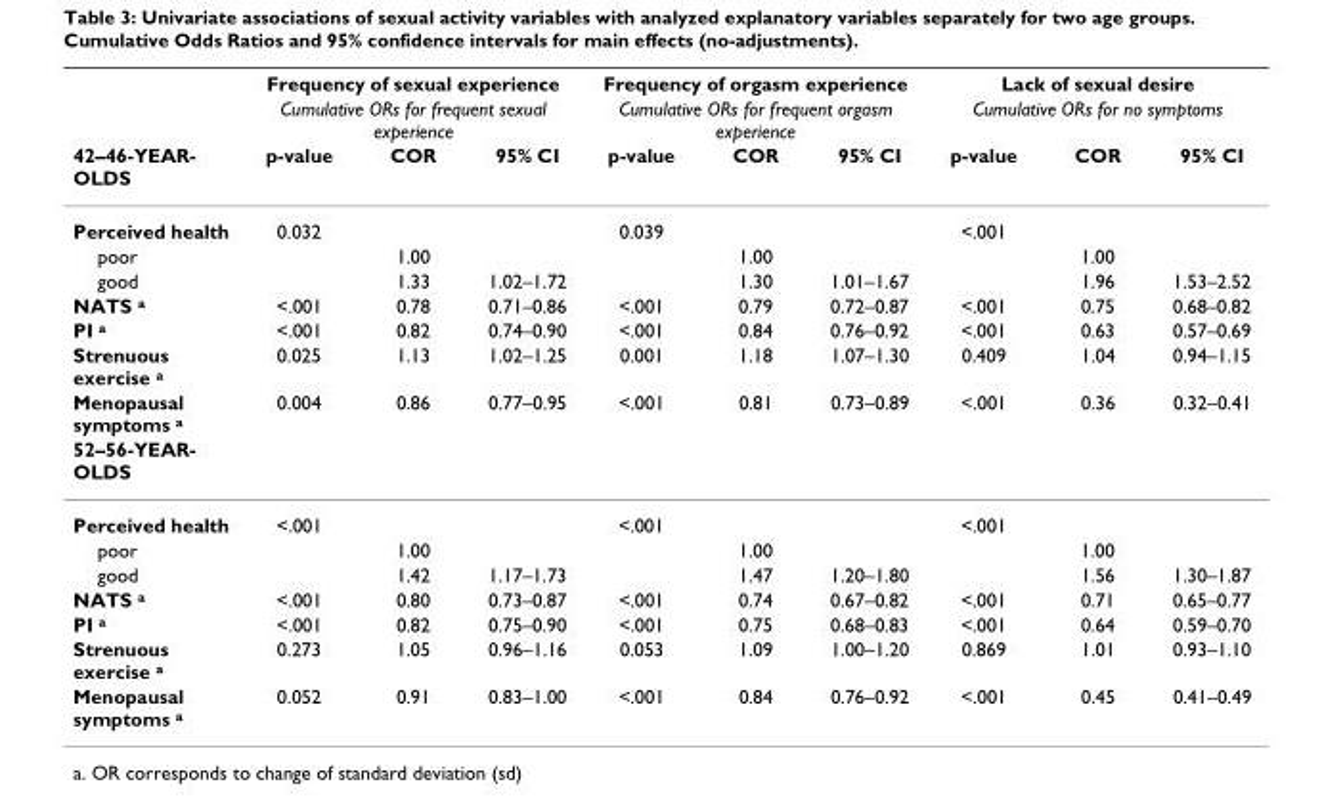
<table><thead><tr><td rowspan="3">42–46-YEAR- OLDS</td><td rowspan="2" colspan="3">Frequency of sexual experience Cumulative ORs for frequent sexual experience</td><td rowspan="2" colspan="3">Frequency of orgasm experience Cumulative ORs for frequent orgasm experience</td><td rowspan="2" colspan="3">Lack of sexual desire Cumulative ORs for no symptoms</td></tr><tr></tr><tr><td>p-value</td><td>COR</td><td>95% CI</td><td>p-value</td><td>COR</td><td>95% CI</td><td>p-value</td><td>COR</td><td>95% CI</td></tr></thead><tbody><tr><td>Perceived health</td><td>0.032</td><td></td><td></td><td>0.039</td><td></td><td></td><td>&lt;.001</td><td></td><td></td></tr><tr><td>poor</td><td></td><td>1.00</td><td></td><td></td><td>1.00</td><td></td><td></td><td>1.00</td><td></td></tr><tr><td>good</td><td></td><td>1.33</td><td>1.02–1.72</td><td></td><td>1.30</td><td>1.01–1.67</td><td></td><td>1.96</td><td>1.53–2.52</td></tr><tr><td>NATS <sup>a</sup></td><td>&lt;.001</td><td>0.78</td><td>0.71–0.86</td><td>&lt;.001</td><td>0.79</td><td>0.72–0.87</td><td>&lt;.001</td><td>0.75</td><td>0.68–0.82</td></tr><tr><td>PI <sup>a</sup></td><td>&lt;.001</td><td>0.82</td><td>0.74–0.90</td><td>&lt;.001</td><td>0.84</td><td>0.76–0.92</td><td>&lt;.001</td><td>0.63</td><td>0.57–0.69</td></tr><tr><td>Strenuous exercise <sup>a</sup></td><td>0.025</td><td>1.13</td><td>1.02–1.25</td><td>0.001</td><td>1.18</td><td>1.07–1.30</td><td>0.409</td><td>1.04</td><td>0.94–1.15</td></tr><tr><td>Menopausal symptoms <sup>a</sup></td><td>0.004</td><td>0.86</td><td>0.77–0.95</td><td>&lt;.001</td><td>0.81</td><td>0.73–0.89</td><td>&lt;.001</td><td>0.36</td><td>0.32–0.41</td></tr><tr><td colspan="10">52–56-YEAR- OLDS</td></tr><tr><td>Perceived health</td><td>&lt;.001</td><td></td><td></td><td>&lt;.001</td><td></td><td></td><td>&lt;.001</td><td></td><td></td></tr><tr><td>poor</td><td></td><td>1.00</td><td></td><td></td><td>1.00</td><td></td><td></td><td>1.00</td><td></td></tr><tr><td>good</td><td></td><td>1.42</td><td>1.17–1.73</td><td></td><td>1.47</td><td>1.20–1.80</td><td></td><td>1.56</td><td>1.30–1.87</td></tr><tr><td>NATS <sup>a</sup></td><td>&lt;.001</td><td>0.80</td><td>0.73–0.87</td><td>&lt;.001</td><td>0.74</td><td>0.67–0.82</td><td>&lt;.001</td><td>0.71</td><td>0.65–0.77</td></tr><tr><td>PI <sup>a</sup></td><td>&lt;.001</td><td>0.82</td><td>0.75–0.90</td><td>&lt;.001</td><td>0.75</td><td>0.68–0.83</td><td>&lt;.001</td><td>0.64</td><td>0.59–0.70</td></tr><tr><td>Strenuous exercise <sup>a</sup></td><td>0.273</td><td>1.05</td><td>0.96–1.16</td><td>0.053</td><td>1.09</td><td>1.00–1.20</td><td>0.869</td><td>1.01</td><td>0.93–1.10</td></tr><tr><td>Menopausal symptoms <sup>a</sup></td><td>0.052</td><td>0.91</td><td>0.83–1.00</td><td>&lt;.001</td><td>0.84</td><td>0.76–0.92</td><td>&lt;.001</td><td>0.45</td><td>0.41–0.49</td></tr></tbody></table>